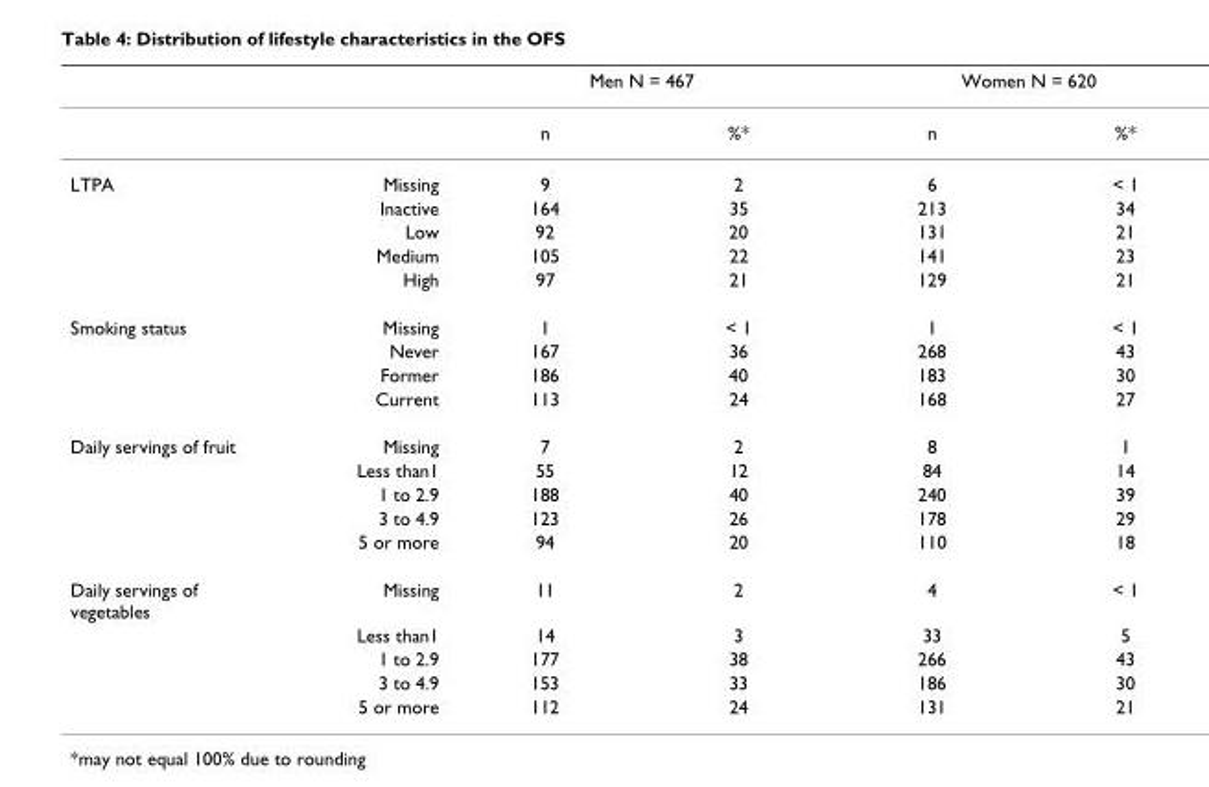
<table><thead><tr><td rowspan="2"></td><td rowspan="2"></td><td colspan="2">Men N = 467</td><td colspan="2">Women N = 620</td></tr><tr><td>n</td><td>%*</td><td>n</td><td>%*</td></tr></thead><tbody><tr><td rowspan="5">LTPA</td><td>Missing</td><td>9</td><td>2</td><td>6</td><td>&lt; 1</td></tr><tr><td>Inactive</td><td>164</td><td>35</td><td>213</td><td>34</td></tr><tr><td>Low</td><td>92</td><td>20</td><td>131</td><td>21</td></tr><tr><td>Medium</td><td>105</td><td>22</td><td>141</td><td>23</td></tr><tr><td>High</td><td>97</td><td>21</td><td>129</td><td>21</td></tr><tr><td rowspan="4">Smoking status</td><td>Missing</td><td>1</td><td>&lt; 1</td><td>1</td><td>&lt; 1</td></tr><tr><td>Never</td><td>167</td><td>36</td><td>268</td><td>43</td></tr><tr><td>Former</td><td>186</td><td>40</td><td>183</td><td>30</td></tr><tr><td>Current</td><td>113</td><td>24</td><td>168</td><td>27</td></tr><tr><td rowspan="5">Daily servings of fruit</td><td>Missing</td><td>7</td><td>2</td><td>8</td><td>1</td></tr><tr><td>Less than1</td><td>55</td><td>12</td><td>84</td><td>14</td></tr><tr><td>1 to 2.9</td><td>188</td><td>40</td><td>240</td><td>39</td></tr><tr><td>3 to 4.9</td><td>123</td><td>26</td><td>178</td><td>29</td></tr><tr><td>5 or more</td><td>94</td><td>20</td><td>110</td><td>18</td></tr><tr><td rowspan="5">Daily servings of vegetables</td><td>Missing</td><td>11</td><td>2</td><td>4</td><td>&lt; 1</td></tr><tr><td>Less than1</td><td>14</td><td>3</td><td>33</td><td>5</td></tr><tr><td>1 to 2.9</td><td>177</td><td>38</td><td>266</td><td>43</td></tr><tr><td>3 to 4.9</td><td>153</td><td>33</td><td>186</td><td>30</td></tr><tr><td>5 or more</td><td>112</td><td>24</td><td>131</td><td>21</td></tr></tbody></table>